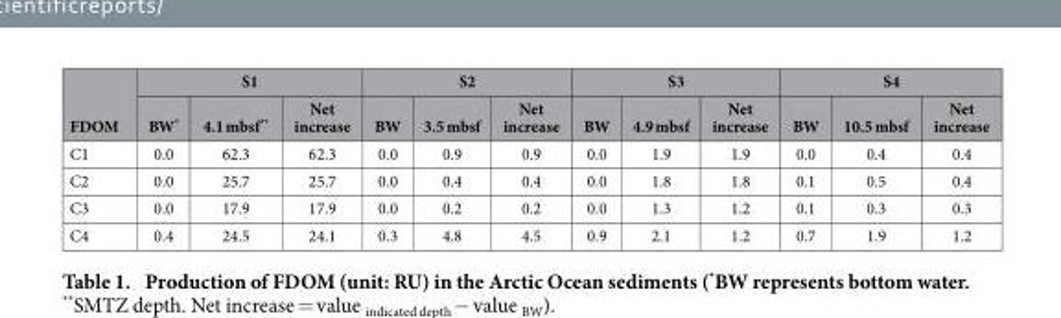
<table><thead><tr><td rowspan="2">FDOM</td><td colspan="3">S1</td><td colspan="3">S2</td><td colspan="3">S3</td><td colspan="3">S4</td></tr><tr><td>BW*</td><td>4.1 mbsf**</td><td>Net increase</td><td>BW</td><td>3.5 mbsf</td><td>Net increase</td><td>BW</td><td>4.9 mbsf</td><td>Net increase</td><td>BW</td><td>10.5 mbsf</td><td>Net increase</td></tr></thead><tbody><tr><td>C1</td><td>0.0</td><td>62.3</td><td>62.3</td><td>0.0</td><td>0.9</td><td>0.9</td><td>0.0</td><td>1.9</td><td>1.9</td><td>0.0</td><td>0.4</td><td>0.4</td></tr><tr><td>C2</td><td>0.0</td><td>25.7</td><td>25.7</td><td>0.0</td><td>0.4</td><td>0.4</td><td>0.0</td><td>1.8</td><td>1.8</td><td>0.1</td><td>0.5</td><td>0.4</td></tr><tr><td>C3</td><td>0.0</td><td>17.9</td><td>17.9</td><td>0.0</td><td>0.2</td><td>0.2</td><td>0.0</td><td>1.3</td><td>1.2</td><td>0.1</td><td>0.3</td><td>0.3</td></tr><tr><td>C4</td><td>0.4</td><td>24.5</td><td>24.1</td><td>0.3</td><td>4.8</td><td>4.5</td><td>0.9</td><td>2.1</td><td>1.2</td><td>0.7</td><td>1.9</td><td>1.2</td></tr></tbody></table>